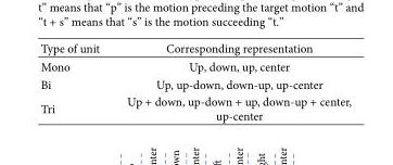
<table><thead><tr><td>Type of unit</td><td>Corresponding representation</td></tr></thead><tbody><tr><td>Mono</td><td>Up, down, up, center</td></tr><tr><td>Bi</td><td>Up, up-down, down-up, up-center</td></tr><tr><td>Tri</td><td>Up + down, up-down + up, down-up + center, up-center</td></tr></tbody></table>